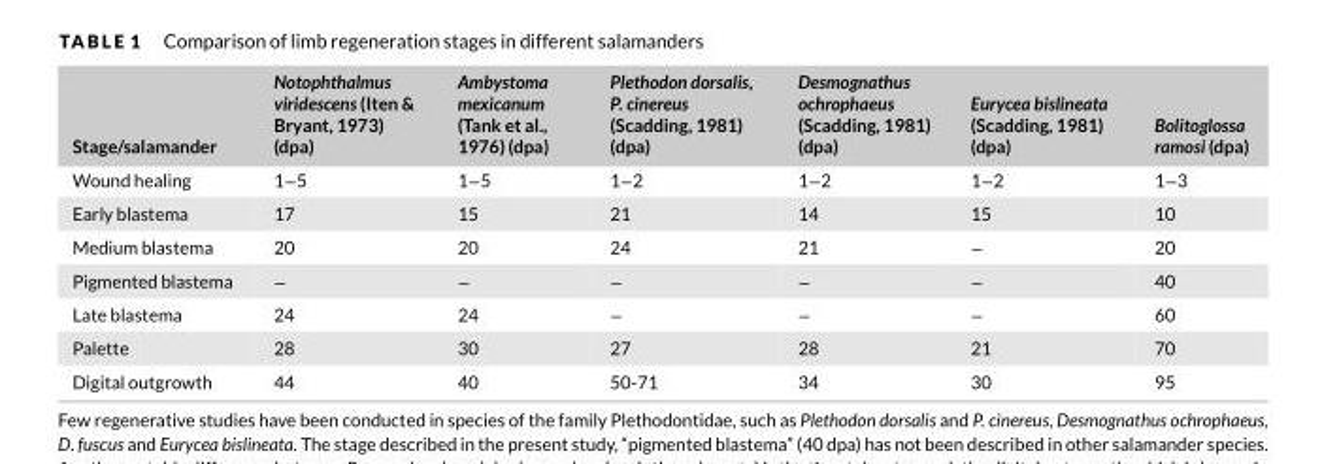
<table><thead><tr><td>Stage/salamander</td><td>Notophthalmus viridescens (Iten &amp; Bryant, 1973) (dpa)</td><td>Ambystoma mexicanum (Tank et al., 1976) (dpa)</td><td>Plethodon dorsalis, P. cinereus (Scadding, 1981) (dpa)</td><td>Desmognathus ochrophaeus (Scadding, 1981) (dpa)</td><td>Eurycea bislineata (Scadding, 1981) (dpa)</td><td>Bolitoglossa ramosi (dpa)</td></tr></thead><tbody><tr><td>Wound healing</td><td>1−5</td><td>1−5</td><td>1−2</td><td>1−2</td><td>1−2</td><td>1−3</td></tr><tr><td>Early blastema</td><td>17</td><td>15</td><td>21</td><td>14</td><td>15</td><td>10</td></tr><tr><td>Medium blastema</td><td>20</td><td>20</td><td>24</td><td>21</td><td>−</td><td>20</td></tr><tr><td>Pigmented blastema</td><td>−</td><td>−</td><td>−</td><td>−</td><td>−</td><td>40</td></tr><tr><td>Late blastema</td><td>24</td><td>24</td><td>−</td><td>−</td><td>−</td><td>60</td></tr><tr><td>Palette</td><td>28</td><td>30</td><td>27</td><td>28</td><td>21</td><td>70</td></tr><tr><td>Digital outgrowth</td><td>44</td><td>40</td><td>50-71</td><td>34</td><td>30</td><td>95</td></tr></tbody></table>